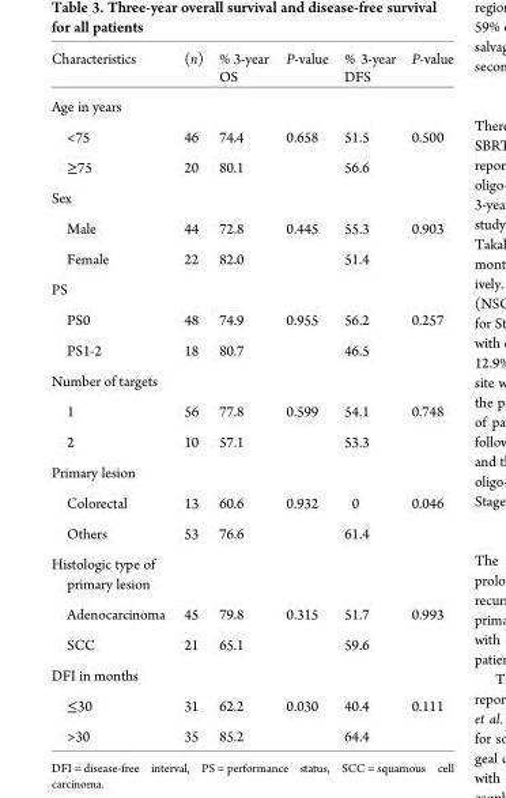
<table><thead><tr><td>Characteristics</td><td>(n)</td><td>% 3-year OS</td><td>P-value</td><td>% 3-year DFS</td><td>P-value</td></tr></thead><tbody><tr><td colspan="6">Age in years</td></tr><tr><td>&lt;75</td><td>46</td><td>74.4</td><td>0.658</td><td>51.5</td><td>0.500</td></tr><tr><td>≥75</td><td>20</td><td>80.1</td><td></td><td>56.6</td><td></td></tr><tr><td colspan="6">Sex</td></tr><tr><td>Male</td><td>44</td><td>72.8</td><td>0.445</td><td>55.3</td><td>0.903</td></tr><tr><td>Female</td><td>22</td><td>82.0</td><td></td><td>51.4</td><td></td></tr><tr><td colspan="6">PS</td></tr><tr><td>PS0</td><td>48</td><td>74.9</td><td>0.955</td><td>56.2</td><td>0.257</td></tr><tr><td>PS1-2</td><td>18</td><td>80.7</td><td></td><td>46.5</td><td></td></tr><tr><td colspan="6">Number of targets</td></tr><tr><td>1</td><td>56</td><td>77.8</td><td>0.599</td><td>54.1</td><td>0.748</td></tr><tr><td>2</td><td>10</td><td>57.1</td><td></td><td>53.3</td><td></td></tr><tr><td colspan="6">Primary lesion</td></tr><tr><td>Colorectal</td><td>13</td><td>60.6</td><td>0.932</td><td>0</td><td>0.046</td></tr><tr><td>Others</td><td>53</td><td>76.6</td><td></td><td>61.4</td><td></td></tr><tr><td colspan="6">Histologic type of primary lesion</td></tr><tr><td>Adenocarcinoma</td><td>45</td><td>79.8</td><td>0.315</td><td>51.7</td><td>0.993</td></tr><tr><td>SCC</td><td>21</td><td>65.1</td><td></td><td>59.6</td><td></td></tr><tr><td colspan="6">DFI in months</td></tr><tr><td>≤30</td><td>31</td><td>62.2</td><td>0.030</td><td>40.4</td><td>0.111</td></tr><tr><td>&gt;30</td><td>35</td><td>85.2</td><td></td><td>64.4</td><td></td></tr></tbody></table>